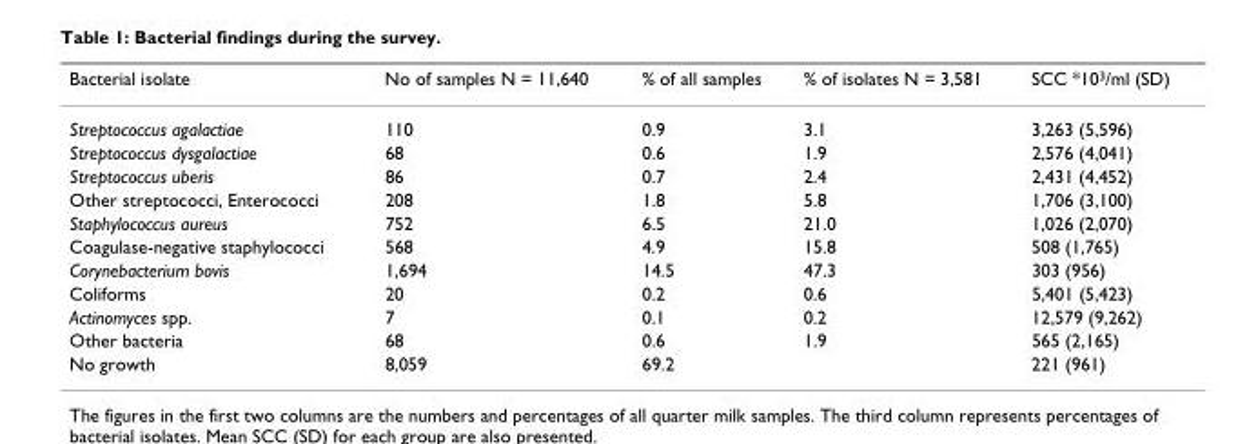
<table><thead><tr><td>Bacterial isolate</td><td>No of samples N = 11,640</td><td>% of all samples</td><td>% of isolates N = 3,581</td><td>SCC *10<sup>3</sup>/ml (SD)</td></tr></thead><tbody><tr><td>Streptococcus agalactiae</td><td>110</td><td>0.9</td><td>3.1</td><td>3,263 (5,596)</td></tr><tr><td>Streptococcus dysgalactiae</td><td>68</td><td>0.6</td><td>1.9</td><td>2,576 (4,041)</td></tr><tr><td>Streptococcus uberis</td><td>86</td><td>0.7</td><td>2.4</td><td>2,431 (4,452)</td></tr><tr><td>Other streptococci, Enterococci</td><td>208</td><td>1.8</td><td>5.8</td><td>1,706 (3,100)</td></tr><tr><td>Staphylococcus aureus</td><td>752</td><td>6.5</td><td>21.0</td><td>1,026 (2,070)</td></tr><tr><td>Coagulase-negative staphylococci</td><td>568</td><td>4.9</td><td>15.8</td><td>508 (1,765)</td></tr><tr><td>Corynebacterium bovis</td><td>1,694</td><td>14.5</td><td>47.3</td><td>303 (956)</td></tr><tr><td>Coliforms</td><td>20</td><td>0.2</td><td>0.6</td><td>5,401 (5,423)</td></tr><tr><td>Actinomyces spp.</td><td>7</td><td>0.1</td><td>0.2</td><td>12,579 (9,262)</td></tr><tr><td>Other bacteria</td><td>68</td><td>0.6</td><td>1.9</td><td>565 (2,165)</td></tr><tr><td>No growth</td><td>8,059</td><td>69.2</td><td></td><td>221 (961)</td></tr></tbody></table>